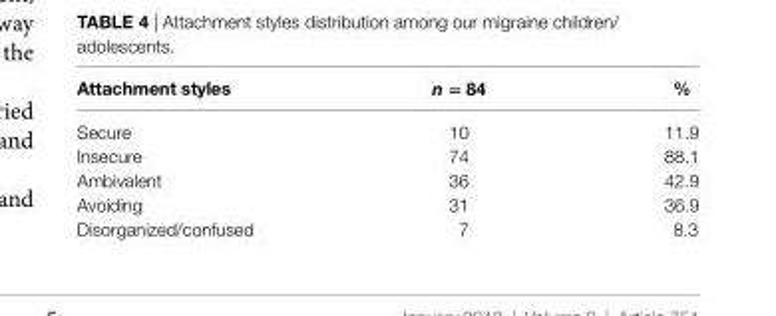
<table><thead><tr><td>attachment styles</td><td>n = 84</td><td>%</td></tr></thead><tbody><tr><td>Secure</td><td>10</td><td>11.9</td></tr><tr><td>Insecure</td><td>74</td><td>88.1</td></tr><tr><td>Ambivalent</td><td>36</td><td>42.9</td></tr><tr><td>Avoiding</td><td>31</td><td>36.9</td></tr><tr><td>Disorganized/confused</td><td>7</td><td>8.3</td></tr></tbody></table>